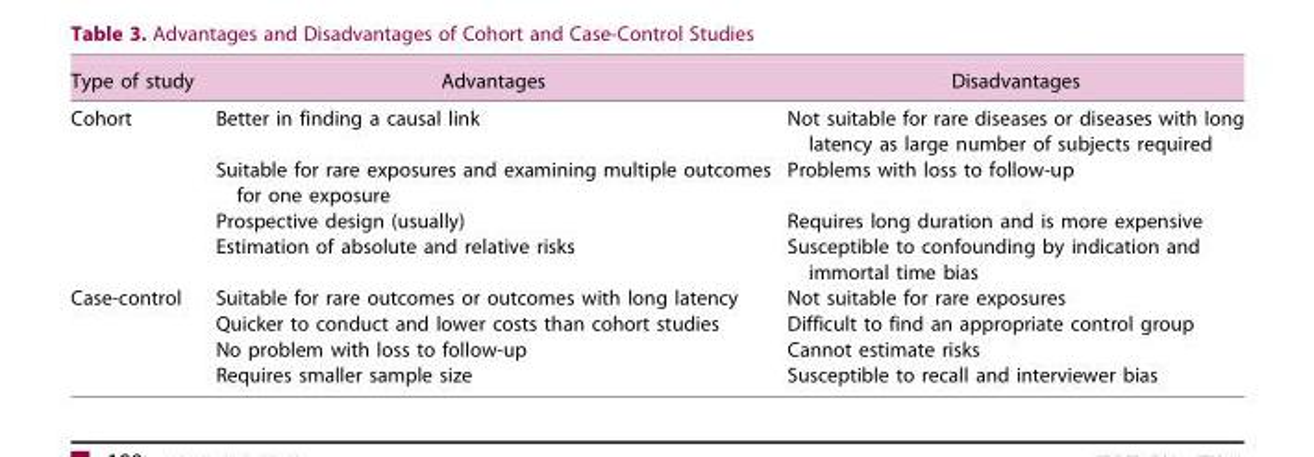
<table><thead><tr><td>Type of study</td><td>Advantages</td><td>Disadvantages</td></tr></thead><tbody><tr><td rowspan="4">Cohort</td><td>Better in finding a causal link</td><td>Not suitable for rare diseases or diseases with long latency as large number of subjects required</td></tr><tr><td>Suitable for rare exposures and examining multiple outcomes for one exposure</td><td>Problems with loss to follow-up</td></tr><tr><td>Prospective design (usually)</td><td>Requires long duration and is more expensive</td></tr><tr><td>Estimation of absolute and relative risks</td><td>Susceptible to confounding by indication and immortal time bias</td></tr><tr><td rowspan="4">Case-control</td><td>Suitable for rare outcomes or outcomes with long latency</td><td>Not suitable for rare exposures</td></tr><tr><td>Quicker to conduct and lower costs than cohort studies</td><td>Difficult to find an appropriate control group</td></tr><tr><td>No problem with loss to follow-up</td><td>Cannot estimate risks</td></tr><tr><td>Requires smaller sample size</td><td>Susceptible to recall and interviewer bias</td></tr></tbody></table>